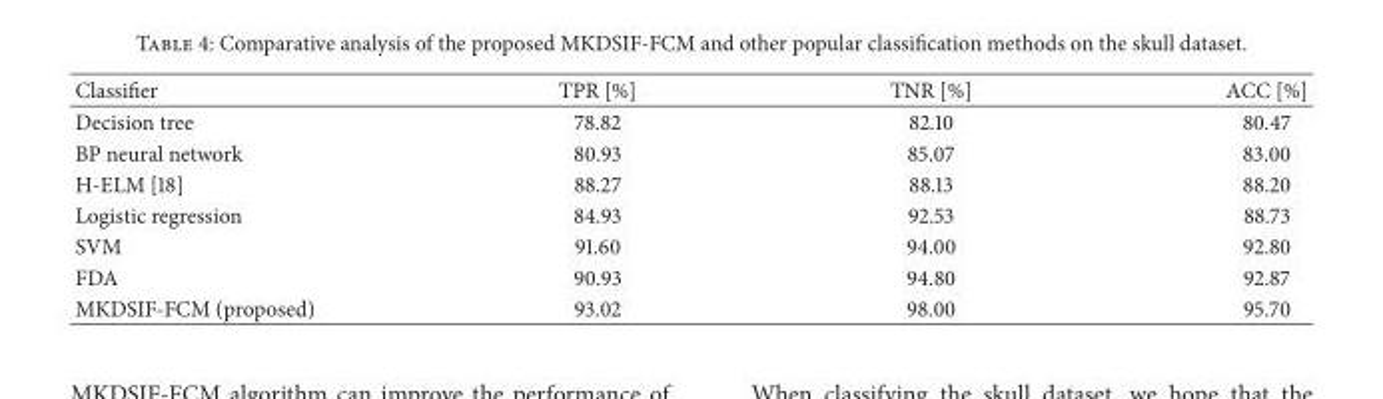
<table><thead><tr><td>Classifier</td><td>TPR [%]</td><td>TNR [%]</td><td>ACC [%]</td></tr></thead><tbody><tr><td>Decision tree</td><td>78.82</td><td>82.10</td><td>80.47</td></tr><tr><td>BP neural network</td><td>80.93</td><td>85.07</td><td>83.00</td></tr><tr><td>H-ELM [18]</td><td>88.27</td><td>88.13</td><td>88.20</td></tr><tr><td>Logistic regression</td><td>84.93</td><td>92.53</td><td>88.73</td></tr><tr><td>SVM</td><td>91.60</td><td>94.00</td><td>92.80</td></tr><tr><td>FDA</td><td>90.93</td><td>94.80</td><td>92.87</td></tr><tr><td>MKDSIF-FCM (proposed)</td><td>93.02</td><td>98.00</td><td>95.70</td></tr></tbody></table>